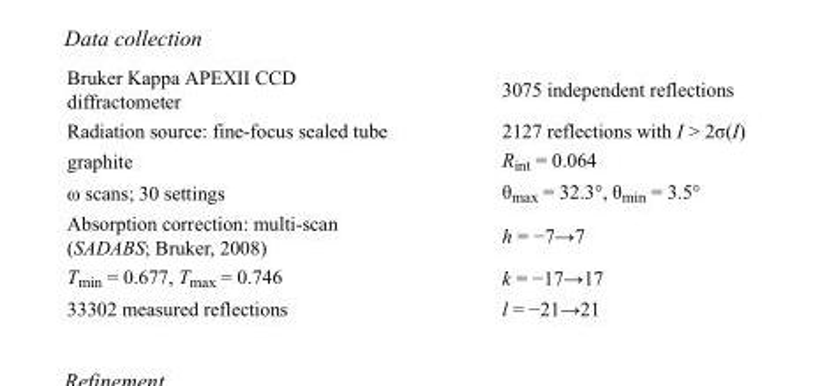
<table><tbody><tr><td>Bruker Kappa APEXII CCD diffractometer</td><td>3075 independent reflections</td></tr><tr><td>Radiation source: fine-focus sealed tube</td><td>2127 reflections with I &gt; 2σ(I)</td></tr><tr><td>graphite</td><td>R<sub>int</sub> = 0.064</td></tr><tr><td>ω scans; 30 settings</td><td>θ<sub>max</sub> = 32.3°, θ<sub>min</sub> = 3.5°</td></tr><tr><td>Absorption correction: multi-scan (SADABS; Bruker, 2008)</td><td>h = −7→7</td></tr><tr><td>T<sub>min</sub> = 0.677, T<sub>max</sub> = 0.746</td><td>k = −17→17</td></tr><tr><td>33302 measured reflections</td><td>l = −21→21</td></tr></tbody></table>